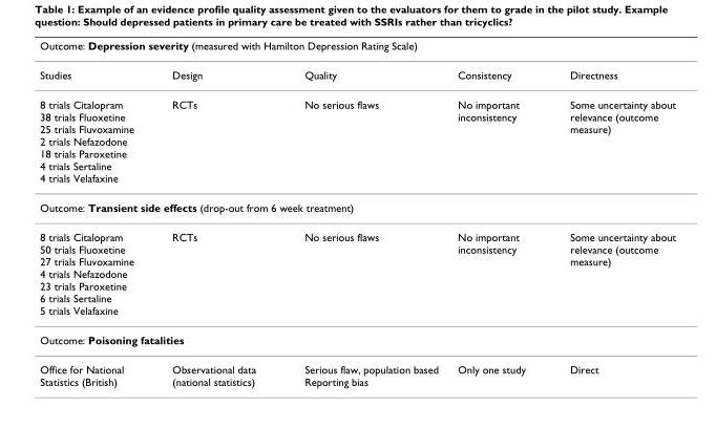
<table><thead><tr><td colspan="5">Outcome: Depression severity (measured with Hamilton Depression Rating Scale)</td></tr><tr><td>Studies</td><td>Design</td><td>Quality</td><td>Consistency</td><td>Directness</td></tr></thead><tbody><tr><td>8 trials Citalopram 38 trials Fluoxetine 25 trials Fluvoxamine 2 trials Nefazodone 18 trials Paroxetine 4 trials Sertaline 4 trials Velafaxine</td><td>RCTs</td><td>No serious flaws</td><td>No important inconsistency</td><td>Some uncertainty about relevance (outcome measure)</td></tr><tr><td colspan="5">Outcome: Transient side effects (drop-out from 6 week treatment)</td></tr><tr><td>8 trials Citalopram 50 trials Fluoxetine 27 trials Fluvoxamine 4 trials Nefazodone 23 trials Paroxetine 6 trials Sertaline 5 trials Velafaxine</td><td>RCTs</td><td>No serious flaws</td><td>No important inconsistency</td><td>Some uncertainty about relevance (outcome measure)</td></tr><tr><td colspan="5">Outcome: Poisoning fatalities</td></tr><tr><td>Office for National Statistics (British)</td><td>Observational data (national statistics)</td><td>Serious flaw, population based Reporting bias</td><td>Only one study</td><td>Direct</td></tr></tbody></table>